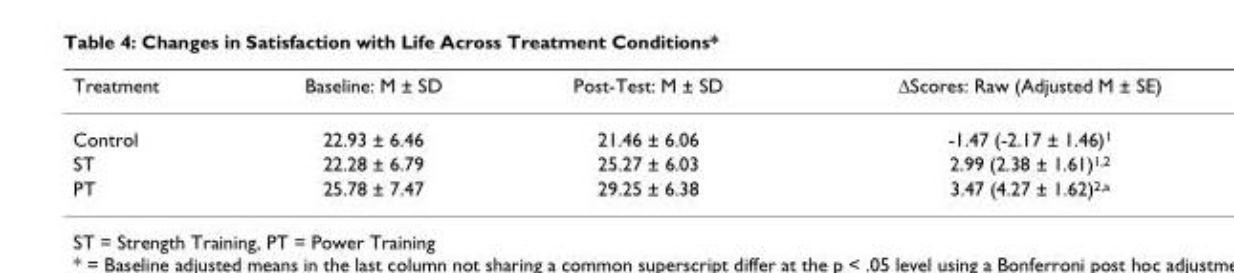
<table><thead><tr><td>Treatment</td><td>Baseline: M ± SD</td><td>Post-Test: M ± SD</td><td>ΔScores: Raw (Adjusted M ± SE)</td></tr></thead><tbody><tr><td>Control</td><td>22.93 ± 6.46</td><td>21.46 ± 6.06</td><td>-1.47 (-2.17 ± 1.46)<sup>1</sup></td></tr><tr><td>ST</td><td>22.28 ± 6.79</td><td>25.27 ± 6.03</td><td>2.99 (2.38 ± 1.61)<sup>1,2</sup></td></tr><tr><td>PT</td><td>25.78 ± 7.47</td><td>29.25 ± 6.38</td><td>3.47 (4.27 ± 1.62)<sup>2,a</sup></td></tr></tbody></table>